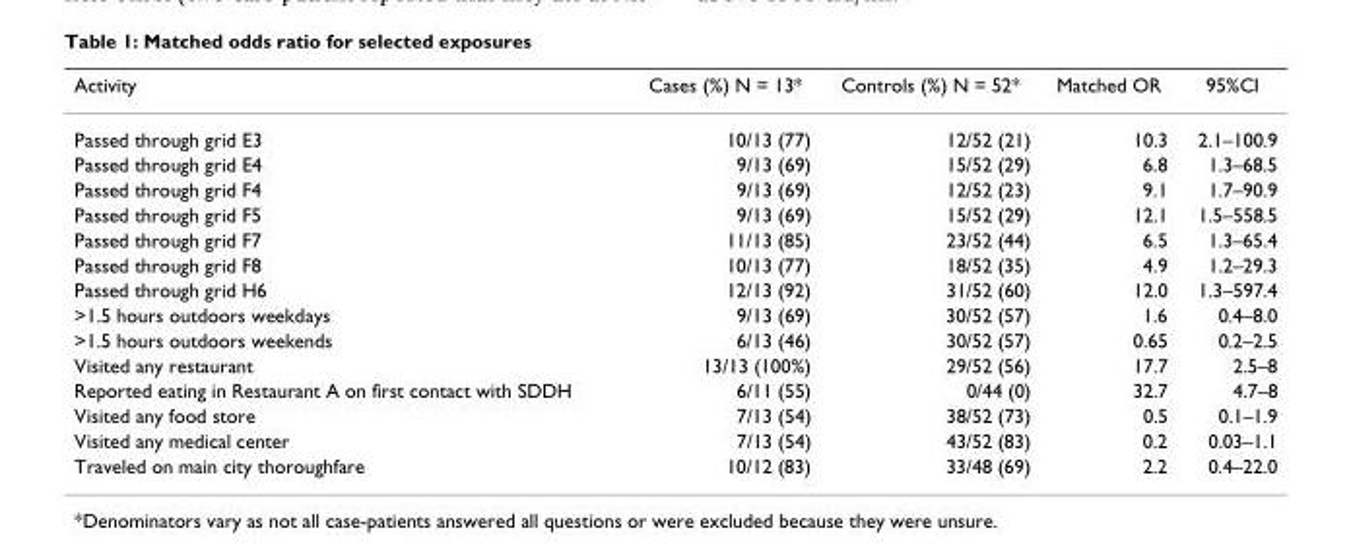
<table><thead><tr><td>Activity</td><td>Cases (%) N = 13*</td><td>Controls (%) N = 52*</td><td>Matched OR</td><td>95%CI</td></tr></thead><tbody><tr><td>Passed through grid E3</td><td>10/13 (77)</td><td>12/52 (21)</td><td>10.3</td><td>2.1–100.9</td></tr><tr><td>Passed through grid E4</td><td>9/13 (69)</td><td>15/52 (29)</td><td>6.8</td><td>1.3–68.5</td></tr><tr><td>Passed through grid F4</td><td>9/13 (69)</td><td>12/52 (23)</td><td>9.1</td><td>1.7–90.9</td></tr><tr><td>Passed through grid F5</td><td>9/13 (69)</td><td>15/52 (29)</td><td>12.1</td><td>1.5–558.5</td></tr><tr><td>Passed through grid F7</td><td>11/13 (85)</td><td>23/52 (44)</td><td>6.5</td><td>1.3–65.4</td></tr><tr><td>Passed through grid F8</td><td>10/13 (77)</td><td>18/52 (35)</td><td>4.9</td><td>1.2–29.3</td></tr><tr><td>Passed through grid H6</td><td>12/13 (92)</td><td>31/52 (60)</td><td>12.0</td><td>1.3–597.4</td></tr><tr><td>&gt;1.5 hours outdoors weekdays</td><td>9/13 (69)</td><td>30/52 (57)</td><td>1.6</td><td>0.4–8.0</td></tr><tr><td>&gt;1.5 hours outdoors weekends</td><td>6/13 (46)</td><td>30/52 (57)</td><td>0.65</td><td>0.2–2.5</td></tr><tr><td>Visited any restaurant</td><td>13/13 (100%)</td><td>29/52 (56)</td><td>17.7</td><td>2.5–8</td></tr><tr><td>Reported eating in Restaurant A on first contact with SDDH</td><td>6/11 (55)</td><td>0/44 (0)</td><td>32.7</td><td>4.7–8</td></tr><tr><td>Visited any food store</td><td>7/13 (54)</td><td>38/52 (73)</td><td>0.5</td><td>0.1–1.9</td></tr><tr><td>Visited any medical center</td><td>7/13 (54)</td><td>43/52 (83)</td><td>0.2</td><td>0.03–1.1</td></tr><tr><td>Traveled on main city thoroughfare</td><td>10/12 (83)</td><td>33/48 (69)</td><td>2.2</td><td>0.4–22.0</td></tr></tbody></table>